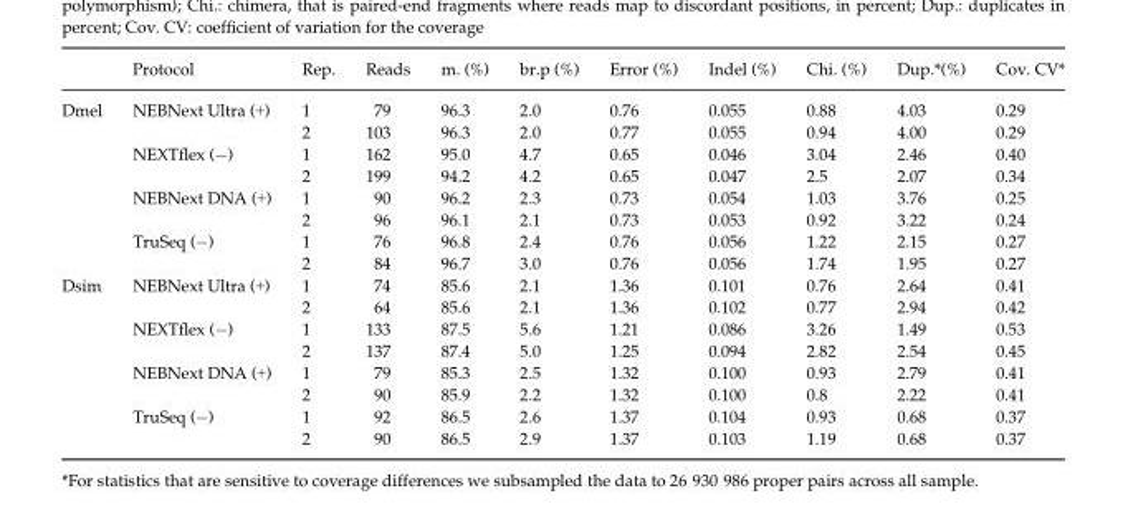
<table><thead><tr><td></td><td>Protocol</td><td>Rep.</td><td>Reads</td><td>m. (%)</td><td>br.p (%)</td><td>Error (%)</td><td>Indel (%)</td><td>Chi. (%)</td><td>Dup.*(%)</td><td>Cov. CV*</td></tr></thead><tbody><tr><td rowspan="8">Dmel</td><td rowspan="2">NEBNext Ultra (+)</td><td>1</td><td>79</td><td>96.3</td><td>2.0</td><td>0.76</td><td>0.055</td><td>0.88</td><td>4.03</td><td>0.29</td></tr><tr><td>2</td><td>103</td><td>96.3</td><td>2.0</td><td>0.77</td><td>0.055</td><td>0.94</td><td>4.00</td><td>0.29</td></tr><tr><td rowspan="2">NEXTflex (−)</td><td>1</td><td>162</td><td>95.0</td><td>4.7</td><td>0.65</td><td>0.046</td><td>3.04</td><td>2.46</td><td>0.40</td></tr><tr><td>2</td><td>199</td><td>94.2</td><td>4.2</td><td>0.65</td><td>0.047</td><td>2.5</td><td>2.07</td><td>0.34</td></tr><tr><td rowspan="2">NEBNext DNA (+)</td><td>1</td><td>90</td><td>96.2</td><td>2.3</td><td>0.73</td><td>0.054</td><td>1.03</td><td>3.76</td><td>0.25</td></tr><tr><td>2</td><td>96</td><td>96.1</td><td>2.1</td><td>0.73</td><td>0.053</td><td>0.92</td><td>3.22</td><td>0.24</td></tr><tr><td rowspan="2">TruSeq (−)</td><td>1</td><td>76</td><td>96.8</td><td>2.4</td><td>0.76</td><td>0.056</td><td>1.22</td><td>2.15</td><td>0.27</td></tr><tr><td>2</td><td>84</td><td>96.7</td><td>3.0</td><td>0.76</td><td>0.056</td><td>1.74</td><td>1.95</td><td>0.27</td></tr><tr><td rowspan="8">Dsim</td><td rowspan="2">NEBNext Ultra (+)</td><td>1</td><td>74</td><td>85.6</td><td>2.1</td><td>1.36</td><td>0.101</td><td>0.76</td><td>2.64</td><td>0.41</td></tr><tr><td>2</td><td>64</td><td>85.6</td><td>2.1</td><td>1.36</td><td>0.102</td><td>0.77</td><td>2.94</td><td>0.42</td></tr><tr><td rowspan="2">NEXTflex (−)</td><td>1</td><td>133</td><td>87.5</td><td>5.6</td><td>1.21</td><td>0.086</td><td>3.26</td><td>1.49</td><td>0.53</td></tr><tr><td>2</td><td>137</td><td>87.4</td><td>5.0</td><td>1.25</td><td>0.094</td><td>2.82</td><td>2.54</td><td>0.45</td></tr><tr><td rowspan="2">NEBNext DNA (+)</td><td>1</td><td>79</td><td>85.3</td><td>2.5</td><td>1.32</td><td>0.100</td><td>0.93</td><td>2.79</td><td>0.41</td></tr><tr><td>2</td><td>90</td><td>85.9</td><td>2.2</td><td>1.32</td><td>0.100</td><td>0.8</td><td>2.22</td><td>0.41</td></tr><tr><td rowspan="2">TruSeq (−)</td><td>1</td><td>92</td><td>86.5</td><td>2.6</td><td>1.37</td><td>0.104</td><td>0.93</td><td>0.68</td><td>0.37</td></tr><tr><td>2</td><td>90</td><td>86.5</td><td>2.9</td><td>1.37</td><td>0.103</td><td>1.19</td><td>0.68</td><td>0.37</td></tr></tbody></table>